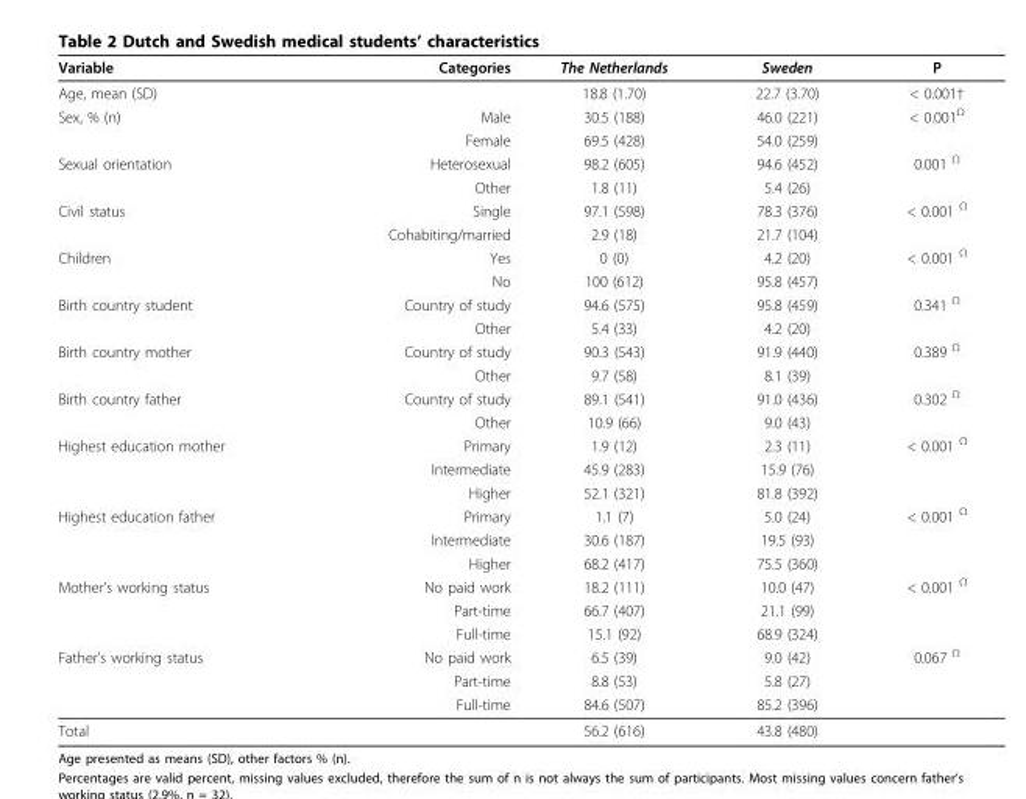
<table><thead><tr><td>Variable</td><td>Categories</td><td>The Netherlands</td><td>Sweden</td><td>P</td></tr></thead><tbody><tr><td>Age, mean (SD)</td><td></td><td>18.8 (1.70)</td><td>22.7 (3.70)</td><td>&lt; 0.001†</td></tr><tr><td rowspan="2">Sex, % (n)</td><td>Male</td><td>30.5 (188)</td><td>46.0 (221)</td><td>&lt; 0.001<sup>Ω</sup></td></tr><tr><td>Female</td><td>69.5 (428)</td><td>54.0 (259)</td><td></td></tr><tr><td rowspan="2">Sexual orientation</td><td>Heterosexual</td><td>98.2 (605)</td><td>94.6 (452)</td><td>0.001 <sup>Ω</sup></td></tr><tr><td>Other</td><td>1.8 (11)</td><td>5.4 (26)</td><td></td></tr><tr><td rowspan="2">Civil status</td><td>Single</td><td>97.1 (598)</td><td>78.3 (376)</td><td>&lt; 0.001 <sup>Ω</sup></td></tr><tr><td>Cohabiting/married</td><td>2.9 (18)</td><td>21.7 (104)</td><td></td></tr><tr><td rowspan="2">Children</td><td>Yes</td><td>0 (0)</td><td>4.2 (20)</td><td>&lt; 0.001 <sup>Ω</sup></td></tr><tr><td>No</td><td>100 (612)</td><td>95.8 (457)</td><td></td></tr><tr><td rowspan="2">Birth country student</td><td>Country of study</td><td>94.6 (575)</td><td>95.8 (459)</td><td>0.341 <sup>Ω</sup></td></tr><tr><td>Other</td><td>5.4 (33)</td><td>4.2 (20)</td><td></td></tr><tr><td rowspan="2">Birth country mother</td><td>Country of study</td><td>90.3 (543)</td><td>91.9 (440)</td><td>0.389 <sup>Ω</sup></td></tr><tr><td>Other</td><td>9.7 (58)</td><td>8.1 (39)</td><td></td></tr><tr><td rowspan="2">Birth country father</td><td>Country of study</td><td>89.1 (541)</td><td>91.0 (436)</td><td>0.302 <sup>Ω</sup></td></tr><tr><td>Other</td><td>10.9 (66)</td><td>9.0 (43)</td><td></td></tr><tr><td rowspan="3">Highest education mother</td><td>Primary</td><td>1.9 (12)</td><td>2.3 (11)</td><td>&lt; 0.001 <sup>Ω</sup></td></tr><tr><td>Intermediate</td><td>45.9 (283)</td><td>15.9 (76)</td><td></td></tr><tr><td>Higher</td><td>52.1 (321)</td><td>81.8 (392)</td><td></td></tr><tr><td rowspan="3">Highest education father</td><td>Primary</td><td>1.1 (7)</td><td>5.0 (24)</td><td>&lt; 0.001 <sup>Ω</sup></td></tr><tr><td>Intermediate</td><td>30.6 (187)</td><td>19.5 (93)</td><td></td></tr><tr><td>Higher</td><td>68.2 (417)</td><td>75.5 (360)</td><td></td></tr><tr><td rowspan="3">Mother’s working status</td><td>No paid work</td><td>18.2 (111)</td><td>10.0 (47)</td><td>&lt; 0.001 <sup>Ω</sup></td></tr><tr><td>Part-time</td><td>66.7 (407)</td><td>21.1 (99)</td><td></td></tr><tr><td>Full-time</td><td>15.1 (92)</td><td>68.9 (324)</td><td></td></tr><tr><td rowspan="3">Father’s working status</td><td>No paid work</td><td>6.5 (39)</td><td>9.0 (42)</td><td>0.067 <sup>Ω</sup></td></tr><tr><td>Part-time</td><td>8.8 (53)</td><td>5.8 (27)</td><td></td></tr><tr><td>Full-time</td><td>84.6 (507)</td><td>85.2 (396)</td><td></td></tr><tr><td>Total</td><td></td><td>56.2 (616)</td><td>43.8 (480)</td><td></td></tr></tbody></table>